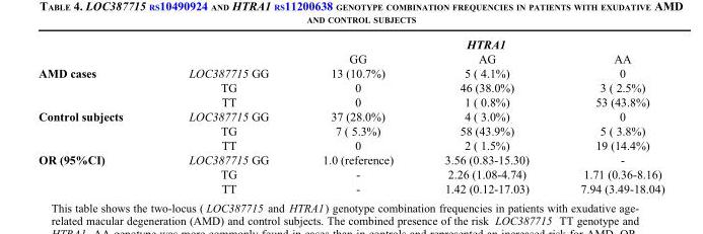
<table><thead><tr><td rowspan="2"></td><td rowspan="2"></td><td colspan="3">HTRA1</td></tr><tr><td>GG</td><td>AG</td><td>AA</td></tr></thead><tbody><tr><td rowspan="3">AMD cases</td><td>LOC387715 GG</td><td>13 (10.7%)</td><td>5 ( 4.1%)</td><td>0</td></tr><tr><td>TG</td><td>0</td><td>46 (38.0%)</td><td>3 ( 2.5%)</td></tr><tr><td>TT</td><td>0</td><td>1 ( 0.8%)</td><td>53 (43.8%)</td></tr><tr><td rowspan="3">Control subjects</td><td>LOC387715 GG</td><td>37 (28.0%)</td><td>4 ( 3.0%)</td><td>0</td></tr><tr><td>TG</td><td>7 ( 5.3%)</td><td>58 (43.9%)</td><td>5 ( 3.8%)</td></tr><tr><td>TT</td><td>0</td><td>2 ( 1.5%)</td><td>19 (14.4%)</td></tr><tr><td rowspan="3">OR (95%CI)</td><td>LOC387715 GG</td><td>1.0 (reference)</td><td>3.56 (0.83-15.30)</td><td>-</td></tr><tr><td>TG</td><td>-</td><td>2.26 (1.08-4.74)</td><td>1.71 (0.36-8.16)</td></tr><tr><td>TT</td><td>-</td><td>1.42 (0.12-17.03)</td><td>7.94 (3.49-18.04)</td></tr></tbody></table>